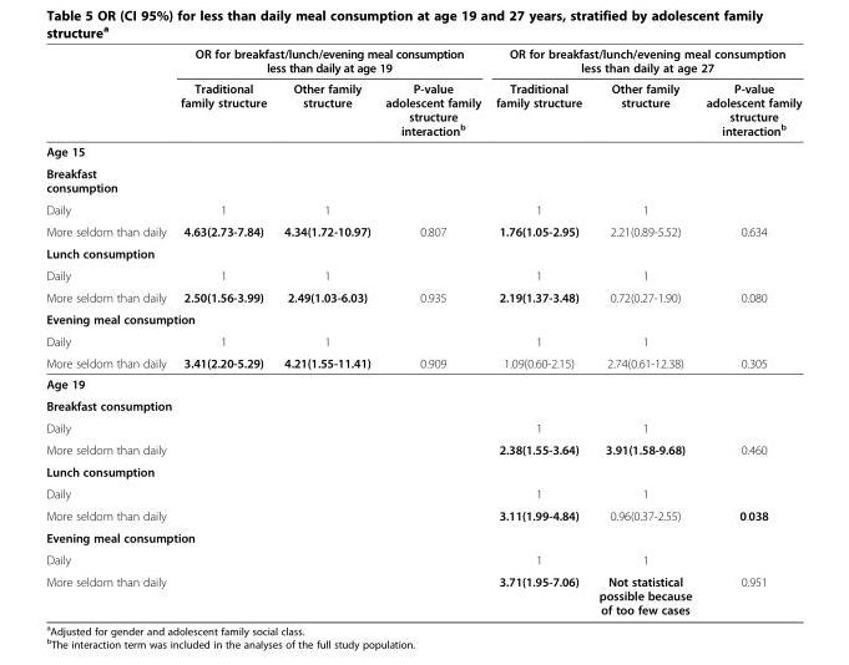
<table><thead><tr><td rowspan="2"></td><td colspan="3">OR for breakfast/lunch/evening meal consumption less than daily at age 19</td><td colspan="3">OR for breakfast/lunch/evening meal consumption less than daily at age 27</td></tr><tr><td>Traditional family structure</td><td>Other family structure</td><td>P-value adolescent family structure interaction<sup>b</sup></td><td>Traditional family structure</td><td>Other family structure</td><td>P-value adolescent family structure interaction<sup>b</sup></td></tr></thead><tbody><tr><td colspan="7">Age 15</td></tr><tr><td colspan="7">Breakfast consumption</td></tr><tr><td>Daily</td><td>1</td><td>1</td><td></td><td>1</td><td>1</td><td></td></tr><tr><td>More seldom than daily</td><td>4.63(2.73-7.84)</td><td>4.34(1.72-10.97)</td><td>0.807</td><td>1.76(1.05-2.95)</td><td>2.21(0.89-5.52)</td><td>0.634</td></tr><tr><td colspan="7">Lunch consumption</td></tr><tr><td>Daily</td><td>1</td><td>1</td><td></td><td>1</td><td>1</td><td></td></tr><tr><td>More seldom than daily</td><td>2.50(1.56-3.99)</td><td>2.49(1.03-6.03)</td><td>0.935</td><td>2.19(1.37-3.48)</td><td>0.72(0.27-1.90)</td><td>0.080</td></tr><tr><td colspan="7">Evening meal consumption</td></tr><tr><td>Daily</td><td>1</td><td>1</td><td></td><td>1</td><td>1</td><td></td></tr><tr><td>More seldom than daily</td><td>3.41(2.20-5.29)</td><td>4.21(1.55-11.41)</td><td>0.909</td><td>1.09(0.60-2.15)</td><td>2.74(0.61-12.38)</td><td>0.305</td></tr><tr><td colspan="7">Age 19</td></tr><tr><td colspan="7">Breakfast consumption</td></tr><tr><td>Daily</td><td></td><td></td><td></td><td>1</td><td>1</td><td></td></tr><tr><td>More seldom than daily</td><td></td><td></td><td></td><td>2.38(1.55-3.64)</td><td>3.91(1.58-9.68)</td><td>0.460</td></tr><tr><td colspan="7">Lunch consumption</td></tr><tr><td>Daily</td><td></td><td></td><td></td><td>1</td><td>1</td><td></td></tr><tr><td>More seldom than daily</td><td></td><td></td><td></td><td>3.11(1.99-4.84)</td><td>0.96(0.37-2.55)</td><td>0.038</td></tr><tr><td colspan="7">Evening meal consumption</td></tr><tr><td>Daily</td><td></td><td></td><td></td><td>1</td><td>1</td><td></td></tr><tr><td>More seldom than daily</td><td></td><td></td><td></td><td>3.71(1.95-7.06)</td><td>Not statistical possible because of too few cases</td><td>0.951</td></tr></tbody></table>